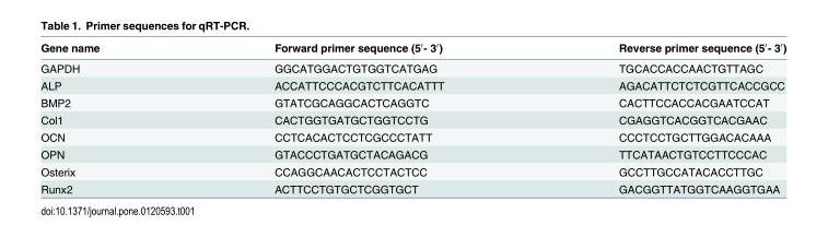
<table><thead><tr><td>Gene name</td><td>Forward primer sequence (5′- 3′)</td><td>Reverse primer sequence (5′- 3′)</td></tr></thead><tbody><tr><td>GAPDH</td><td>GGCATGGACTGTGGTCATGAG</td><td>TGCACCACCAACTGTTAGC</td></tr><tr><td>ALP</td><td>ACCATTCCCACGTCTTCACATTT</td><td>AGACATTCTCTCGTTCACCGCC</td></tr><tr><td>BMP2</td><td>GTATCGCAGGCACTCAGGTC</td><td>CACTTCCACCACGAATCCAT</td></tr><tr><td>Col1α</td><td>CACTGGTGATGCTGGTCCTG</td><td>CGAGGTCACGGTCACGAAC</td></tr><tr><td>OCN</td><td>CCTCACACTCCTCGCCCTATT</td><td>CCCTCCTGCTTGGACACAAA</td></tr><tr><td>OPN</td><td>GTACCCTGATGCTACAGACG</td><td>TTCATAACTGTCCTTCCCAC</td></tr><tr><td>Osterix</td><td>CCAGGCAACACTCCTACTCC</td><td>GCCTTGCCATACACCTTGC</td></tr><tr><td>Runx2</td><td>ACTTCCTGTGCTCGGTGCT</td><td>GACGGTTATGGTCAAGGTGAA</td></tr></tbody></table>